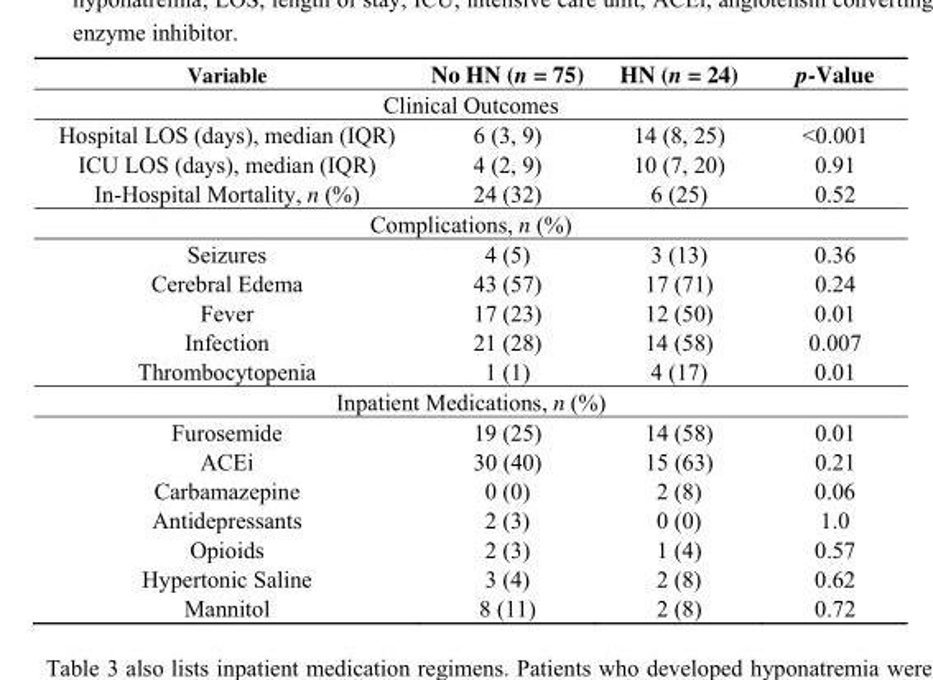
<table><thead><tr><td>Variable</td><td>No HN (n = 75)</td><td>HN (n = 24)</td><td>p-Value</td></tr></thead><tbody><tr><td colspan="4">Clinical Outcomes</td></tr><tr><td>Hospital LOS (days), median (IQR)</td><td>6 (3, 9)</td><td>14 (8, 25)</td><td>&lt;0.001</td></tr><tr><td>ICU LOS (days), median (IQR)</td><td>4 (2, 9)</td><td>10 (7, 20)</td><td>0.91</td></tr><tr><td>In-Hospital Mortality, n (%)</td><td>24 (32)</td><td>6 (25)</td><td>0.52</td></tr><tr><td colspan="4">Complications, n (%)</td></tr><tr><td>Seizures</td><td>4 (5)</td><td>3 (13)</td><td>0.36</td></tr><tr><td>Cerebral Edema</td><td>43 (57)</td><td>17 (71)</td><td>0.24</td></tr><tr><td>Fever</td><td>17 (23)</td><td>12 (50)</td><td>0.01</td></tr><tr><td>Infection</td><td>21 (28)</td><td>14 (58)</td><td>0.007</td></tr><tr><td>Thrombocytopenia</td><td>1 (1)</td><td>4 (17)</td><td>0.01</td></tr><tr><td colspan="4">Inpatient Medications, n (%)</td></tr><tr><td>Furosemide</td><td>19 (25)</td><td>14 (58)</td><td>0.01</td></tr><tr><td>ACEi</td><td>30 (40)</td><td>15 (63)</td><td>0.21</td></tr><tr><td>Carbamazepine</td><td>0 (0)</td><td>2 (8)</td><td>0.06</td></tr><tr><td>Antidepressants</td><td>2 (3)</td><td>0 (0)</td><td>1.0</td></tr><tr><td>Opioids</td><td>2 (3)</td><td>1 (4)</td><td>0.57</td></tr><tr><td>Hypertonic Saline</td><td>3 (4)</td><td>2 (8)</td><td>0.62</td></tr><tr><td>Mannitol</td><td>8 (11)</td><td>2 (8)</td><td>0.72</td></tr></tbody></table>